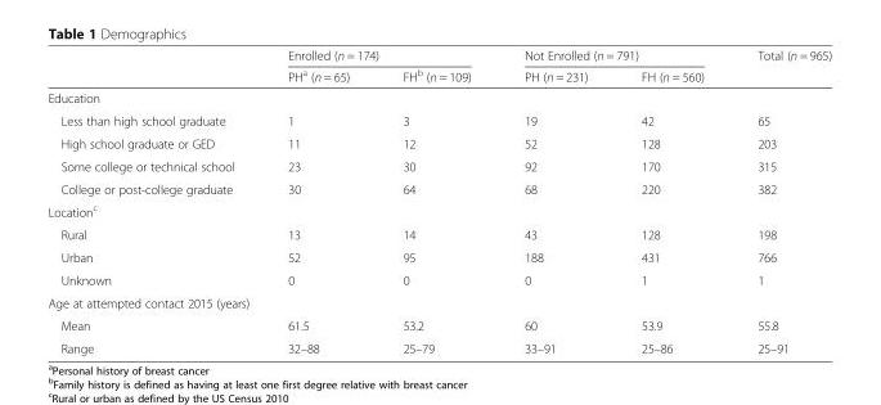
<table><thead><tr><td rowspan="2"></td><td colspan="2">Enrolled (n = 174)</td><td colspan="2">Not Enrolled (n = 791)</td><td rowspan="2">Total (n = 965)</td></tr><tr><td>PH<sup>a</sup> (n = 65)</td><td>FH<sup>b</sup> (n = 109)</td><td>PH (n = 231)</td><td>FH (n = 560)</td></tr></thead><tbody><tr><td colspan="6">Education</td></tr><tr><td>Less than high school graduate</td><td>1</td><td>3</td><td>19</td><td>42</td><td>65</td></tr><tr><td>High school graduate or GED</td><td>11</td><td>12</td><td>52</td><td>128</td><td>203</td></tr><tr><td>Some college or technical school</td><td>23</td><td>30</td><td>92</td><td>170</td><td>315</td></tr><tr><td>College or post-college graduate</td><td>30</td><td>64</td><td>68</td><td>220</td><td>382</td></tr><tr><td colspan="6">Location<sup>c</sup></td></tr><tr><td>Rural</td><td>13</td><td>14</td><td>43</td><td>128</td><td>198</td></tr><tr><td>Urban</td><td>52</td><td>95</td><td>188</td><td>431</td><td>766</td></tr><tr><td>Unknown</td><td>0</td><td>0</td><td>0</td><td>1</td><td>1</td></tr><tr><td colspan="6">Age at attempted contact 2015 (years)</td></tr><tr><td>Mean</td><td>61.5</td><td>53.2</td><td>60</td><td>53.9</td><td>55.8</td></tr><tr><td>Range</td><td>32–88</td><td>25–79</td><td>33–91</td><td>25–86</td><td>25–91</td></tr></tbody></table>